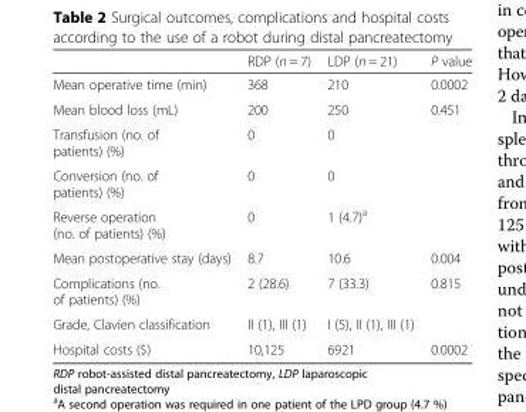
<table><thead><tr><td></td><td>RDP (n = 7)</td><td>LDP (n = 21)</td><td>P value</td></tr></thead><tbody><tr><td>Mean operative time (min)</td><td>368</td><td>210</td><td>0.0002</td></tr><tr><td>Mean blood loss (mL)</td><td>200</td><td>250</td><td>0.451</td></tr><tr><td>Transfusion (no. of patients) (%)</td><td>0</td><td>0</td><td></td></tr><tr><td>Conversion (no. of patients) (%)</td><td>0</td><td>0</td><td></td></tr><tr><td>Reverse operation (no. of patients) (%)</td><td>0</td><td>1 (4.7)<sup>a</sup></td><td></td></tr><tr><td>Mean postoperative stay (days)</td><td>8.7</td><td>10.6</td><td>0.004</td></tr><tr><td>Complications (no. of patients) (%)</td><td>2 (28.6)</td><td>7 (33.3)</td><td>0.815</td></tr><tr><td>Grade, Clavien classification</td><td>II (1), III (1)</td><td>I (5), II (1), III (1)</td><td></td></tr><tr><td>Hospital costs ($)</td><td>10,125</td><td>6921</td><td>0.0002</td></tr></tbody></table>